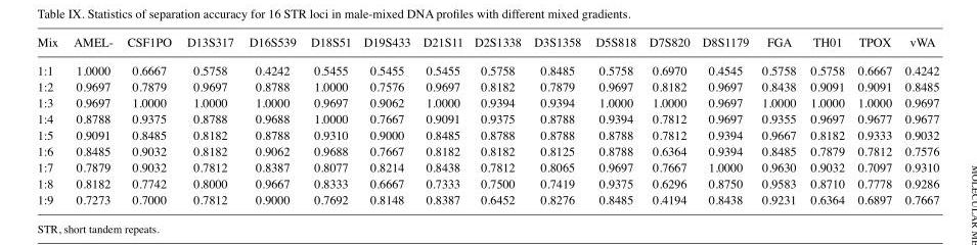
<table><thead><tr><td>Mix</td><td>AMEL‑</td><td>CSF1PO</td><td>D13S317</td><td>D16S539</td><td>D18S51</td><td>D19S433</td><td>D21S11</td><td>D2S1338</td><td>D3S1358</td><td>D5S818</td><td>D7S820</td><td>D8S1179</td><td>FGA</td><td>TH01</td><td>TPOX</td><td>vWA</td></tr></thead><tbody><tr><td>1:1</td><td>1.0000</td><td>0.6667</td><td>0.5758</td><td>0.4242</td><td>0.5455</td><td>0.5455</td><td>0.5455</td><td>0.5758</td><td>0.8485</td><td>0.5758</td><td>0.6970</td><td>0.4545</td><td>0.5758</td><td>0.5758</td><td>0.6667</td><td>0.4242</td></tr><tr><td>1:2</td><td>0.9697</td><td>0.7879</td><td>0.9697</td><td>0.8788</td><td>1.0000</td><td>0.7576</td><td>0.9697</td><td>0.8182</td><td>0.7879</td><td>0.9697</td><td>0.8182</td><td>0.9697</td><td>0.8438</td><td>0.9091</td><td>0.9091</td><td>0.8485</td></tr><tr><td>1:3</td><td>0.9697</td><td>1.0000</td><td>1.0000</td><td>1.0000</td><td>0.9697</td><td>0.9062</td><td>1.0000</td><td>0.9394</td><td>0.9394</td><td>1.0000</td><td>1.0000</td><td>0.9697</td><td>1.0000</td><td>1.0000</td><td>1.0000</td><td>0.9697</td></tr><tr><td>1:4</td><td>0.8788</td><td>0.9375</td><td>0.8788</td><td>0.9688</td><td>1.0000</td><td>0.7667</td><td>0.9091</td><td>0.9375</td><td>0.8788</td><td>0.9394</td><td>0.7812</td><td>0.9697</td><td>0.9355</td><td>0.9697</td><td>0.9677</td><td>0.9677</td></tr><tr><td>1:5</td><td>0.9091</td><td>0.8485</td><td>0.8182</td><td>0.8788</td><td>0.9310</td><td>0.9000</td><td>0.8485</td><td>0.8788</td><td>0.8788</td><td>0.8788</td><td>0.7812</td><td>0.9394</td><td>0.9667</td><td>0.8182</td><td>0.9333</td><td>0.9032</td></tr><tr><td>1:6</td><td>0.8485</td><td>0.9032</td><td>0.8182</td><td>0.9062</td><td>0.9688</td><td>0.7667</td><td>0.8182</td><td>0.8182</td><td>0.8125</td><td>0.8788</td><td>0.6364</td><td>0.9394</td><td>0.8485</td><td>0.7879</td><td>0.7812</td><td>0.7576</td></tr><tr><td>1:7</td><td>0.7879</td><td>0.9032</td><td>0.7812</td><td>0.8387</td><td>0.8077</td><td>0.8214</td><td>0.8438</td><td>0.7812</td><td>0.8065</td><td>0.9697</td><td>0.7667</td><td>1.0000</td><td>0.9630</td><td>0.9032</td><td>0.7097</td><td>0.9310</td></tr><tr><td>1:8</td><td>0.8182</td><td>0.7742</td><td>0.8000</td><td>0.9667</td><td>0.8333</td><td>0.6667</td><td>0.7333</td><td>0.7500</td><td>0.7419</td><td>0.9375</td><td>0.6296</td><td>0.8750</td><td>0.9583</td><td>0.8710</td><td>0.7778</td><td>0.9286</td></tr><tr><td>1:9</td><td>0.7273</td><td>0.7000</td><td>0.7812</td><td>0.9000</td><td>0.7692</td><td>0.8148</td><td>0.8387</td><td>0.6452</td><td>0.8276</td><td>0.8485</td><td>0.4194</td><td>0.8438</td><td>0.9231</td><td>0.6364</td><td>0.6897</td><td>0.7667</td></tr></tbody></table>